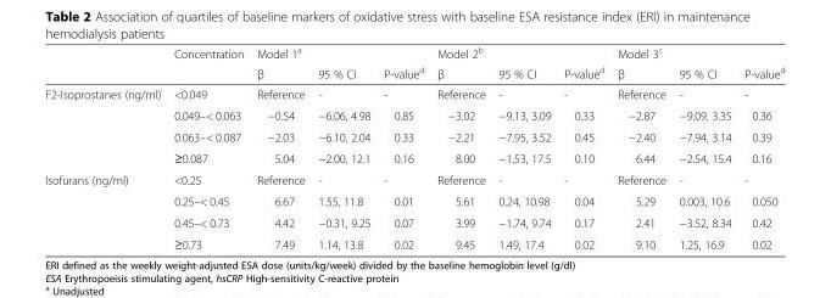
<table><thead><tr><td rowspan="2"></td><td rowspan="2">Concentration</td><td colspan="3">Model 1<sup>a</sup></td><td colspan="3">Model 2<sup>b</sup></td><td colspan="3">Model 3<sup>c</sup></td></tr><tr><td>β</td><td>95 % CI</td><td>P-value<sup>d</sup></td><td>β</td><td>95 % CI</td><td>P-value<sup>d</sup></td><td>β</td><td>95 % CI</td><td>P-value<sup>d</sup></td></tr></thead><tbody><tr><td rowspan="4">F2-Isoprostanes (ng/ml)</td><td>&lt;0.049</td><td>Reference</td><td>-</td><td>-</td><td>Reference</td><td>-</td><td>-</td><td>Reference</td><td>-</td><td>-</td></tr><tr><td>0.049–&lt; 0.063</td><td>−0.54</td><td>−6.06, 4.98</td><td>0.85</td><td>−3.02</td><td>−9.13, 3.09</td><td>0.33</td><td>−2.87</td><td>−9.09, 3.35</td><td>0.36</td></tr><tr><td>0.063–&lt; 0.087</td><td>−2.03</td><td>−6.10, 2.04</td><td>0.33</td><td>−2.21</td><td>−7.95, 3.52</td><td>0.45</td><td>−2.40</td><td>−7.94, 3.14</td><td>0.39</td></tr><tr><td>≥0.087</td><td>5.04</td><td>−2.00, 12.1</td><td>0.16</td><td>8.00</td><td>−1.53, 17.5</td><td>0.10</td><td>6.44</td><td>−2.54, 15.4</td><td>0.16</td></tr><tr><td rowspan="4">Isofurans (ng/ml)</td><td>&lt;0.25</td><td>Reference</td><td>-</td><td>-</td><td>Reference</td><td>-</td><td>-</td><td>Reference</td><td>-</td><td>-</td></tr><tr><td>0.25–&lt; 0.45</td><td>6.67</td><td>1.55, 11.8</td><td>0.01</td><td>5.61</td><td>0.24, 10.98</td><td>0.04</td><td>5.29</td><td>0.003, 10.6</td><td>0.050</td></tr><tr><td>0.45–&lt; 0.73</td><td>4.42</td><td>−0.31, 9.25</td><td>0.07</td><td>3.99</td><td>−1.74, 9.74</td><td>0.17</td><td>2.41</td><td>−3.52, 8.34</td><td>0.42</td></tr><tr><td>≥0.73</td><td>7.49</td><td>1.14, 13.8</td><td>0.02</td><td>9.45</td><td>1.49, 17.4</td><td>0.02</td><td>9.10</td><td>1.25, 16.9</td><td>0.02</td></tr></tbody></table>